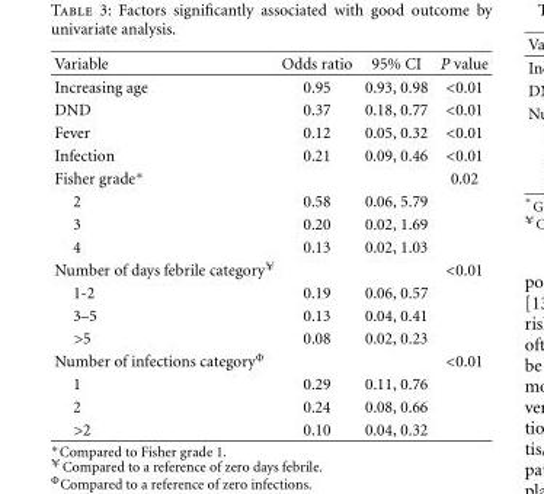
<table><thead><tr><td>Variable</td><td>Odds ratio</td><td>95% CI</td><td>P value</td></tr></thead><tbody><tr><td>Increasing age</td><td>0.95</td><td>0.93, 0.98</td><td>&lt;0.01</td></tr><tr><td>DND</td><td>0.37</td><td>0.18, 0.77</td><td>&lt;0.01</td></tr><tr><td>Fever</td><td>0.12</td><td>0.05, 0.32</td><td>&lt;0.01</td></tr><tr><td>Infection</td><td>0.21</td><td>0.09, 0.46</td><td>&lt;0.01</td></tr><tr><td>Fisher grade∗</td><td></td><td></td><td>0.02</td></tr><tr><td>2</td><td>0.58</td><td>0.06, 5.79</td><td></td></tr><tr><td>3</td><td>0.20</td><td>0.02, 1.69</td><td></td></tr><tr><td>4</td><td>0.13</td><td>0.02, 1.03</td><td></td></tr><tr><td>Number of days febrile category<sup>¥</sup></td><td></td><td></td><td>&lt;0.01</td></tr><tr><td>1-2</td><td>0.19</td><td>0.06, 0.57</td><td></td></tr><tr><td>3–5</td><td>0.13</td><td>0.04, 0.41</td><td></td></tr><tr><td>&gt;5</td><td>0.08</td><td>0.02, 0.23</td><td></td></tr><tr><td>Number of infections category<sup>Φ</sup></td><td></td><td></td><td>&lt;0.01</td></tr><tr><td>1</td><td>0.29</td><td>0.11, 0.76</td><td></td></tr><tr><td>2</td><td>0.24</td><td>0.08, 0.66</td><td></td></tr><tr><td>&gt;2</td><td>0.10</td><td>0.04, 0.32</td><td></td></tr></tbody></table>